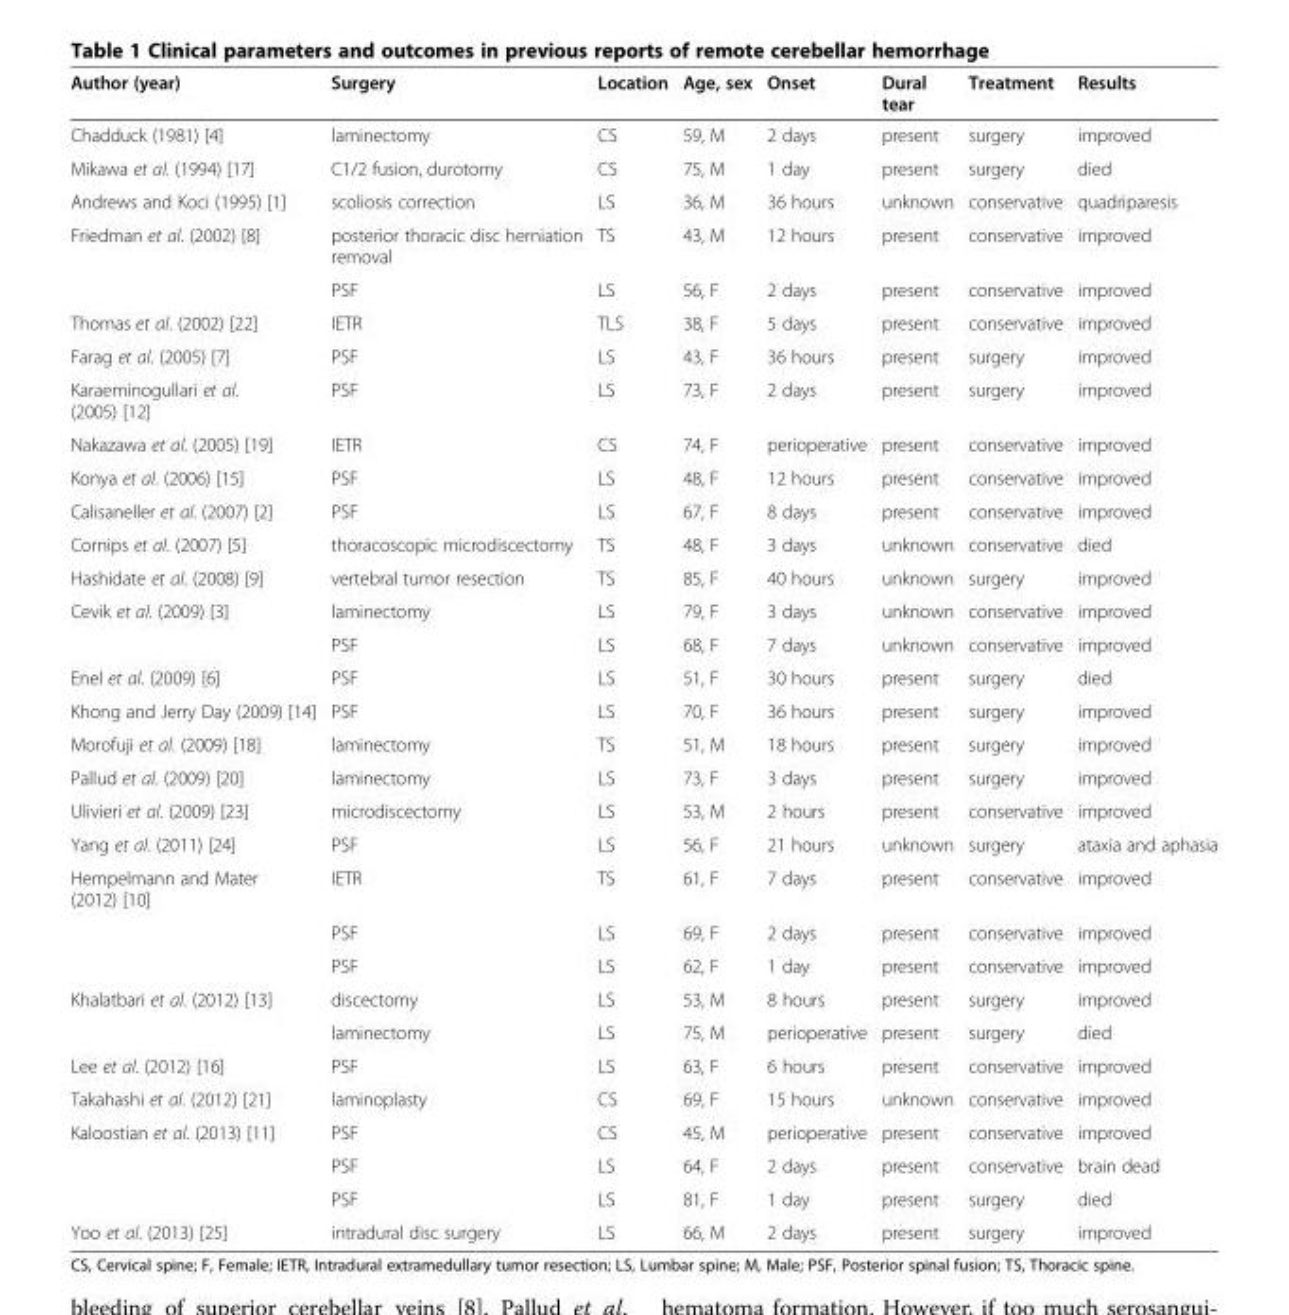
<table><thead><tr><td>Author (year)</td><td>Surgery</td><td>Location</td><td>Age, sex</td><td>Onset</td><td>Dural tear</td><td>Treatment</td><td>Results</td></tr></thead><tbody><tr><td>Chadduck (1981) [4]</td><td>laminectomy</td><td>CS</td><td>59, M</td><td>2 days</td><td>present</td><td>surgery</td><td>improved</td></tr><tr><td>Mikawa et al. (1994) [17]</td><td>C1/2 fusion, durotomy</td><td>CS</td><td>75, M</td><td>1 day</td><td>present</td><td>surgery</td><td>died</td></tr><tr><td>Andrews and Koci (1995) [1]</td><td>scoliosis correction</td><td>LS</td><td>36, M</td><td>36 hours</td><td>unknown</td><td>conservative</td><td>quadriparesis</td></tr><tr><td rowspan="2">Friedman et al. (2002) [8]</td><td>posterior thoracic disc herniation removal</td><td>TS</td><td>43, M</td><td>12 hours</td><td>present</td><td>conservative</td><td>improved</td></tr><tr><td>PSF</td><td>LS</td><td>56, F</td><td>2 days</td><td>present</td><td>conservative</td><td>improved</td></tr><tr><td>Thomas et al. (2002) [22]</td><td>IETR</td><td>TLS</td><td>38, F</td><td>5 days</td><td>present</td><td>conservative</td><td>improved</td></tr><tr><td>Farag et al. (2005) [7]</td><td>PSF</td><td>LS</td><td>43, F</td><td>36 hours</td><td>present</td><td>surgery</td><td>improved</td></tr><tr><td>Karaeminogullari et al. (2005) [12]</td><td>PSF</td><td>LS</td><td>73, F</td><td>2 days</td><td>present</td><td>surgery</td><td>improved</td></tr><tr><td>Nakazawa et al. (2005) [19]</td><td>IETR</td><td>CS</td><td>74, F</td><td>perioperative</td><td>present</td><td>conservative</td><td>improved</td></tr><tr><td>Konya et al. (2006) [15]</td><td>PSF</td><td>LS</td><td>48, F</td><td>12 hours</td><td>present</td><td>conservative</td><td>improved</td></tr><tr><td>Calisaneller et al. (2007) [2]</td><td>PSF</td><td>LS</td><td>67, F</td><td>8 days</td><td>present</td><td>conservative</td><td>improved</td></tr><tr><td>Cornips et al. (2007) [5]</td><td>thoracoscopic microdiscectomy</td><td>TS</td><td>48, F</td><td>3 days</td><td>unknown</td><td>conservative</td><td>died</td></tr><tr><td>Hashidate et al. (2008) [9]</td><td>vertebral tumor resection</td><td>TS</td><td>85, F</td><td>40 hours</td><td>unknown</td><td>surgery</td><td>improved</td></tr><tr><td rowspan="2">Cevik et al. (2009) [3]</td><td>laminectomy</td><td>LS</td><td>79, F</td><td>3 days</td><td>unknown</td><td>conservative</td><td>improved</td></tr><tr><td>PSF</td><td>LS</td><td>68, F</td><td>7 days</td><td>unknown</td><td>conservative</td><td>improved</td></tr><tr><td>Enel et al. (2009) [6]</td><td>PSF</td><td>LS</td><td>51, F</td><td>30 hours</td><td>present</td><td>surgery</td><td>died</td></tr><tr><td>Khong and Jerry Day (2009) [14]</td><td>PSF</td><td>LS</td><td>70, F</td><td>36 hours</td><td>present</td><td>surgery</td><td>improved</td></tr><tr><td>Morofuji et al. (2009) [18]</td><td>laminectomy</td><td>TS</td><td>51, M</td><td>18 hours</td><td>present</td><td>surgery</td><td>improved</td></tr><tr><td>Pallud et al. (2009) [20]</td><td>laminectomy</td><td>LS</td><td>73, F</td><td>3 days</td><td>present</td><td>surgery</td><td>improved</td></tr><tr><td>Ulivieri et al. (2009) [23]</td><td>microdiscectomy</td><td>LS</td><td>53, M</td><td>2 hours</td><td>present</td><td>conservative</td><td>improved</td></tr><tr><td>Yang et al. (2011) [24]</td><td>PSF</td><td>LS</td><td>56, F</td><td>21 hours</td><td>unknown</td><td>surgery</td><td>ataxia and aphasia</td></tr><tr><td rowspan="3">Hempelmann and Mater (2012) [10]</td><td>IETR</td><td>TS</td><td>61, F</td><td>7 days</td><td>present</td><td>conservative</td><td>improved</td></tr><tr><td>PSF</td><td>LS</td><td>69, F</td><td>2 days</td><td>present</td><td>conservative</td><td>improved</td></tr><tr><td>PSF</td><td>LS</td><td>62, F</td><td>1 day</td><td>present</td><td>conservative</td><td>improved</td></tr><tr><td rowspan="2">Khalatbari et al. (2012) [13]</td><td>discectomy</td><td>LS</td><td>53, M</td><td>8 hours</td><td>present</td><td>surgery</td><td>improved</td></tr><tr><td>laminectomy</td><td>LS</td><td>75, M</td><td>perioperative</td><td>present</td><td>surgery</td><td>died</td></tr><tr><td>Lee et al. (2012) [16]</td><td>PSF</td><td>LS</td><td>63, F</td><td>6 hours</td><td>present</td><td>conservative</td><td>improved</td></tr><tr><td>Takahashi et al. (2012) [21]</td><td>laminoplasty</td><td>CS</td><td>69, F</td><td>15 hours</td><td>unknown</td><td>conservative</td><td>improved</td></tr><tr><td rowspan="3">Kaloostian et al. (2013) [11]</td><td>PSF</td><td>CS</td><td>45, M</td><td>perioperative</td><td>present</td><td>conservative</td><td>improved</td></tr><tr><td>PSF</td><td>LS</td><td>64, F</td><td>2 days</td><td>present</td><td>conservative</td><td>brain dead</td></tr><tr><td>PSF</td><td>LS</td><td>81, F</td><td>1 day</td><td>present</td><td>surgery</td><td>died</td></tr><tr><td>Yoo et al. (2013) [25]</td><td>intradural disc surgery</td><td>LS</td><td>66, M</td><td>2 days</td><td>present</td><td>surgery</td><td>improved</td></tr></tbody></table>